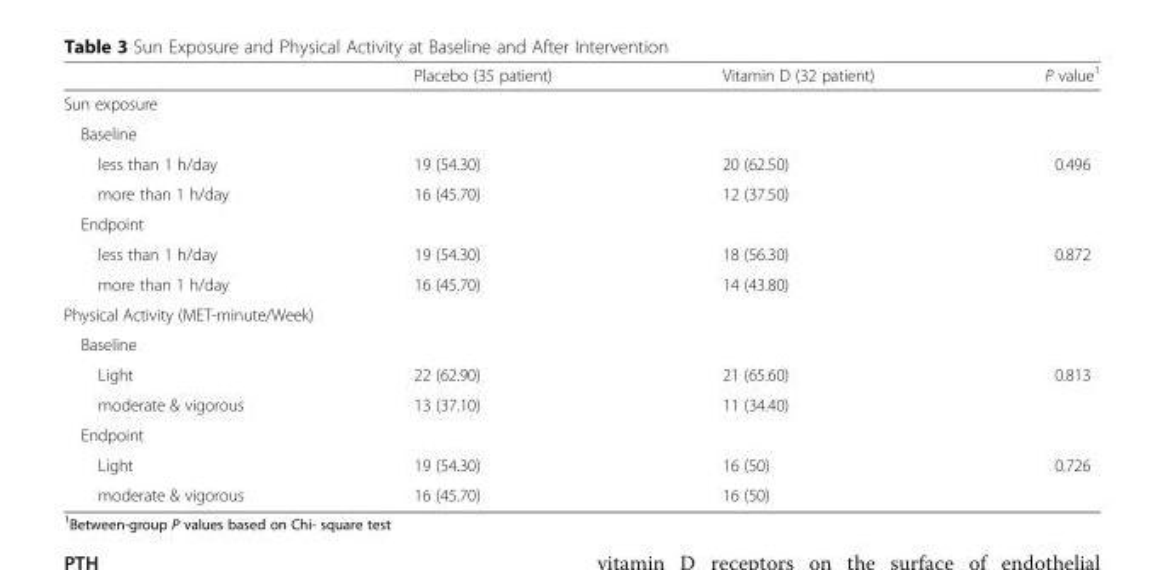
<table><thead><tr><td></td><td>Placebo (35 patient)</td><td>Vitamin D (32 patient)</td><td>P value<sup>1</sup></td></tr></thead><tbody><tr><td colspan="4">Sun exposure</td></tr><tr><td colspan="4">Baseline</td></tr><tr><td>less than 1 h/day</td><td>19 (54.30)</td><td>20 (62.50)</td><td rowspan="2">0.496</td></tr><tr><td>more than 1 h/day</td><td>16 (45.70)</td><td>12 (37.50)</td></tr><tr><td colspan="4">Endpoint</td></tr><tr><td>less than 1 h/day</td><td>19 (54.30)</td><td>18 (56.30)</td><td rowspan="2">0.872</td></tr><tr><td>more than 1 h/day</td><td>16 (45.70)</td><td>14 (43.80)</td></tr><tr><td colspan="4">Physical Activity (MET-minute/Week)</td></tr><tr><td colspan="4">Baseline</td></tr><tr><td>Light</td><td>22 (62.90)</td><td>21 (65.60)</td><td rowspan="2">0.813</td></tr><tr><td>moderate &amp; vigorous</td><td>13 (37.10)</td><td>11 (34.40)</td></tr><tr><td colspan="4">Endpoint</td></tr><tr><td>Light</td><td>19 (54.30)</td><td>16 (50)</td><td rowspan="2">0.726</td></tr><tr><td>moderate &amp; vigorous</td><td>16 (45.70)</td><td>16 (50)</td></tr></tbody></table>